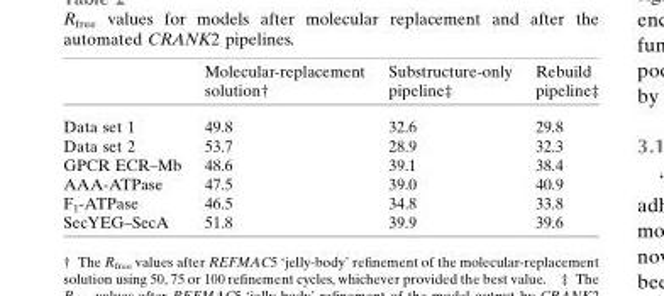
<table><thead><tr><td></td><td>Molecular-replacement solution†</td><td>Substructure-only pipeline‡</td><td>Rebuild pipeline‡</td></tr></thead><tbody><tr><td>Data set 1</td><td>49.8</td><td>32.6</td><td>29.8</td></tr><tr><td>Data set 2</td><td>53.7</td><td>28.9</td><td>32.3</td></tr><tr><td>GPCR ECR–Mb</td><td>48.6</td><td>39.1</td><td>38.4</td></tr><tr><td>AAA-ATPase</td><td>47.5</td><td>39.0</td><td>40.9</td></tr><tr><td>F<sub>1</sub>-ATPase</td><td>46.5</td><td>34.8</td><td>33.8</td></tr><tr><td>SecYEG–SecA</td><td>51.8</td><td>39.9</td><td>39.6</td></tr></tbody></table>